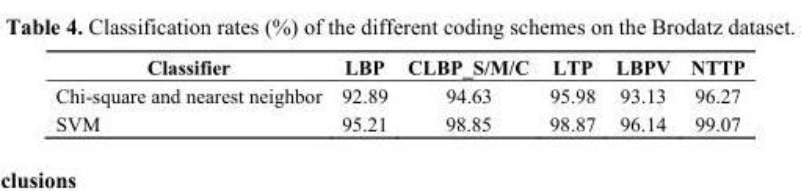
<table><thead><tr><td>Classifier</td><td>LBP</td><td>CLBP_S/M/C</td><td>LTP</td><td>LBPV</td><td>NTTP</td></tr></thead><tbody><tr><td>Chi-square and nearest neighbor</td><td>92.89</td><td>94.63</td><td>95.98</td><td>93.13</td><td>96.27</td></tr><tr><td>SVM</td><td>95.21</td><td>98.85</td><td>98.87</td><td>96.14</td><td>99.07</td></tr></tbody></table>